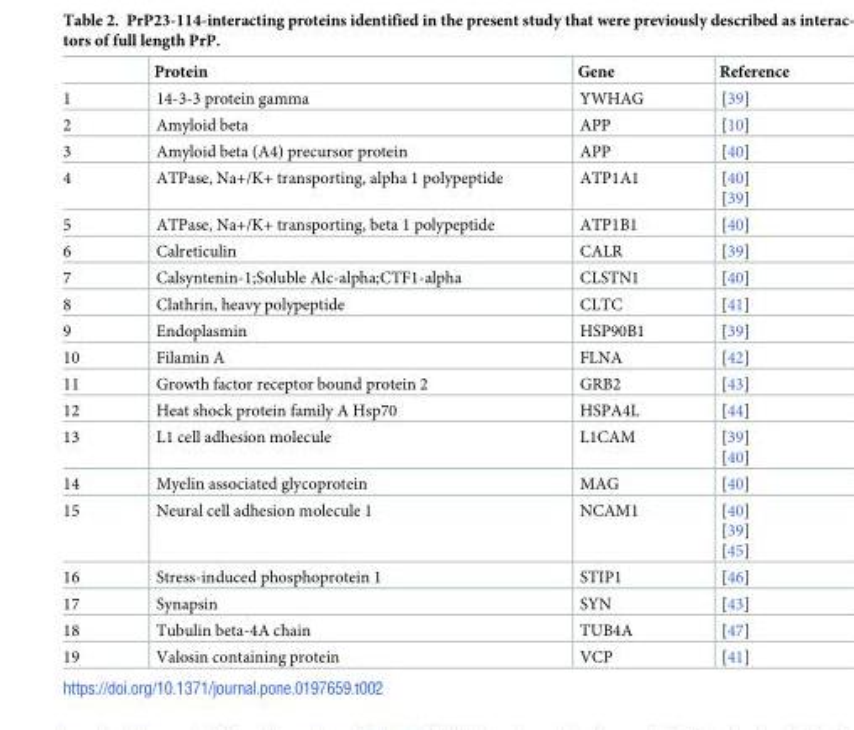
<table><thead><tr><td></td><td>Protein</td><td>Gene</td><td>Reference</td></tr></thead><tbody><tr><td>1</td><td>14-3-3 protein gamma</td><td>YWHAG</td><td>[39]</td></tr><tr><td>2</td><td>Amyloid beta</td><td>APP</td><td>[10]</td></tr><tr><td>3</td><td>Amyloid beta (A4) precursor protein</td><td>APP</td><td>[40]</td></tr><tr><td>4</td><td>ATPase, Na+/K+ transporting, alpha 1 polypeptide</td><td>ATP1A1</td><td>[40] [39]</td></tr><tr><td>5</td><td>ATPase, Na+/K+ transporting, beta 1 polypeptide</td><td>ATP1B1</td><td>[40]</td></tr><tr><td>6</td><td>Calreticulin</td><td>CALR</td><td>[39]</td></tr><tr><td>7</td><td>Calsyntenin-1;Soluble Alc-alpha;CTF1-alpha</td><td>CLSTN1</td><td>[40]</td></tr><tr><td>8</td><td>Clathrin, heavy polypeptide</td><td>CLTC</td><td>[41]</td></tr><tr><td>9</td><td>Endoplasmin</td><td>HSP90B1</td><td>[39]</td></tr><tr><td>10</td><td>Filamin A</td><td>FLNA</td><td>[42]</td></tr><tr><td>11</td><td>Growth factor receptor bound protein 2</td><td>GRB2</td><td>[43]</td></tr><tr><td>12</td><td>Heat shock protein family A Hsp70</td><td>HSPA4L</td><td>[44]</td></tr><tr><td>13</td><td>L1 cell adhesion molecule</td><td>L1CAM</td><td>[39] [40]</td></tr><tr><td>14</td><td>Myelin associated glycoprotein</td><td>MAG</td><td>[40]</td></tr><tr><td>15</td><td>Neural cell adhesion molecule 1</td><td>NCAM1</td><td>[40] [39] [45]</td></tr><tr><td>16</td><td>Stress-induced phosphoprotein 1</td><td>STIP1</td><td>[46]</td></tr><tr><td>17</td><td>Synapsin</td><td>SYN</td><td>[43]</td></tr><tr><td>18</td><td>Tubulin beta-4A chain</td><td>TUB4A</td><td>[47]</td></tr><tr><td>19</td><td>Valosin containing protein</td><td>VCP</td><td>[41]</td></tr></tbody></table>